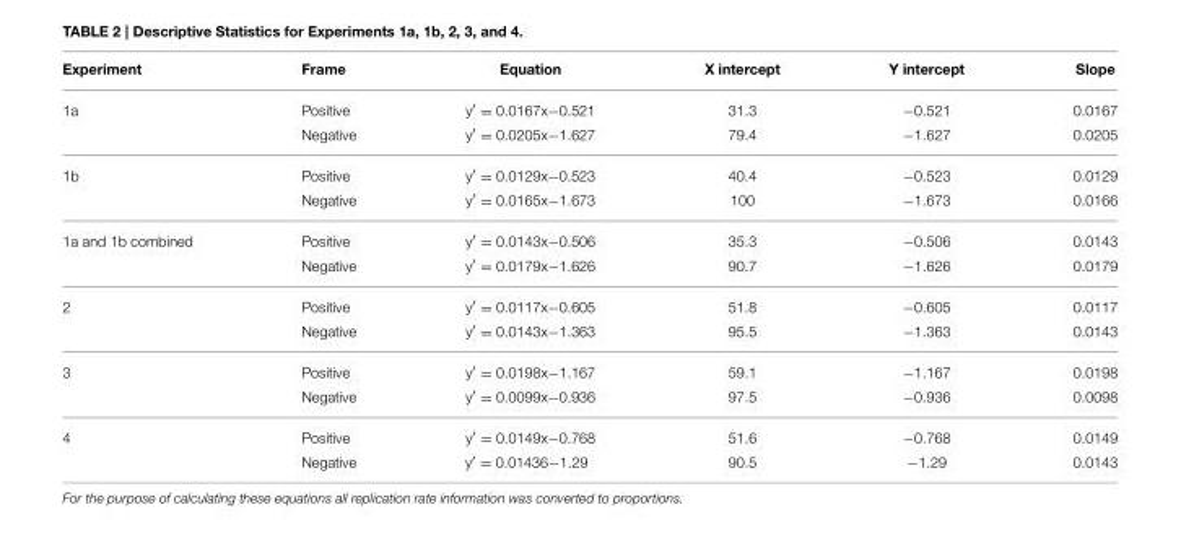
<table><thead><tr><td>Experiment</td><td>Frame</td><td>Equation</td><td>X intercept</td><td>Y intercept</td><td>Slope</td></tr></thead><tbody><tr><td rowspan="2">1a</td><td>Positive</td><td>y′ = 0.0167x−0.521</td><td>31.3</td><td>−0.521</td><td>0.0167</td></tr><tr><td>Negative</td><td>y′ = 0.0205x−1.627</td><td>79.4</td><td>−1.627</td><td>0.0205</td></tr><tr><td rowspan="2">1b</td><td>Positive</td><td>y′ = 0.0129x−0.523</td><td>40.4</td><td>−0.523</td><td>0.0129</td></tr><tr><td>Negative</td><td>y′ = 0.0165x−1.673</td><td>100</td><td>−1.673</td><td>0.0166</td></tr><tr><td rowspan="2">1a and 1b combined</td><td>Positive</td><td>y′ = 0.0143x−0.506</td><td>35.3</td><td>−0.506</td><td>0.0143</td></tr><tr><td>Negative</td><td>y′ = 0.0179x−1.626</td><td>90.7</td><td>−1.626</td><td>0.0179</td></tr><tr><td rowspan="2">2</td><td>Positive</td><td>y′ = 0.0117x−0.605</td><td>51.8</td><td>−0.605</td><td>0.0117</td></tr><tr><td>Negative</td><td>y′ = 0.0143x−1.363</td><td>95.5</td><td>−1.363</td><td>0.0143</td></tr><tr><td rowspan="2">3</td><td>Positive</td><td>y′ = 0.0198x−1.167</td><td>59.1</td><td>−1.167</td><td>0.0198</td></tr><tr><td>Negative</td><td>y′ = 0.0099x−0.936</td><td>97.5</td><td>−0.936</td><td>0.0098</td></tr><tr><td rowspan="2">4</td><td>Positive</td><td>y′ = 0.0149x−0.768</td><td>51.6</td><td>−0.768</td><td>0.0149</td></tr><tr><td>Negative</td><td>y′ = 0.01436−1.29</td><td>90.5</td><td>−1.29</td><td>0.0143</td></tr></tbody></table>